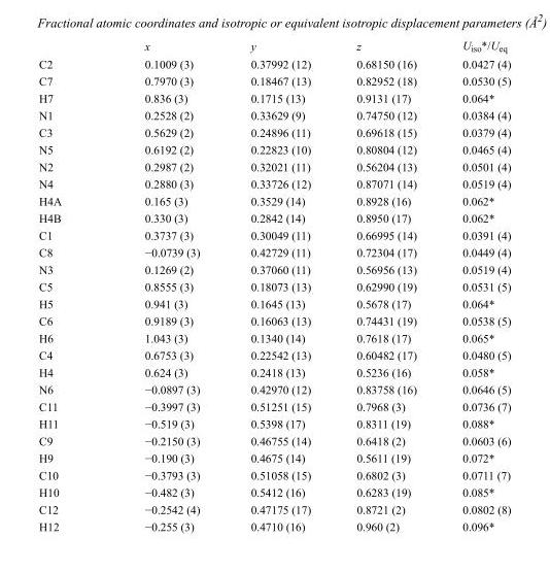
<table><thead><tr><td></td><td>x</td><td>y</td><td>z</td><td>U<sub>iso</sub>*/U<sub>eq</sub></td></tr></thead><tbody><tr><td>C2</td><td>0.1009 (3)</td><td>0.37992 (12)</td><td>0.68150 (16)</td><td>0.0427 (4)</td></tr><tr><td>C7</td><td>0.7970 (3)</td><td>0.18467 (13)</td><td>0.82952 (18)</td><td>0.0530 (5)</td></tr><tr><td>H7</td><td>0.836 (3)</td><td>0.1715 (13)</td><td>0.9131 (17)</td><td>0.064*</td></tr><tr><td>N1</td><td>0.2528 (2)</td><td>0.33629 (9)</td><td>0.74750 (12)</td><td>0.0384 (4)</td></tr><tr><td>C3</td><td>0.5629 (2)</td><td>0.24896 (11)</td><td>0.69618 (15)</td><td>0.0379 (4)</td></tr><tr><td>N5</td><td>0.6192 (2)</td><td>0.22823 (10)</td><td>0.80804 (12)</td><td>0.0465 (4)</td></tr><tr><td>N2</td><td>0.2987 (2)</td><td>0.32021 (11)</td><td>0.56204 (13)</td><td>0.0501 (4)</td></tr><tr><td>N4</td><td>0.2880 (3)</td><td>0.33726 (12)</td><td>0.87071 (14)</td><td>0.0519 (4)</td></tr><tr><td>H4A</td><td>0.165 (3)</td><td>0.3529 (14)</td><td>0.8928 (16)</td><td>0.062*</td></tr><tr><td>H4B</td><td>0.330 (3)</td><td>0.2842 (14)</td><td>0.8950 (17)</td><td>0.062*</td></tr><tr><td>C1</td><td>0.3737 (3)</td><td>0.30049 (11)</td><td>0.66995 (14)</td><td>0.0391 (4)</td></tr><tr><td>C8</td><td>−0.0739 (3)</td><td>0.42729 (11)</td><td>0.72304 (17)</td><td>0.0449 (4)</td></tr><tr><td>N3</td><td>0.1269 (2)</td><td>0.37060 (11)</td><td>0.56956 (13)</td><td>0.0519 (4)</td></tr><tr><td>C5</td><td>0.8555 (3)</td><td>0.18073 (13)</td><td>0.62990 (19)</td><td>0.0531 (5)</td></tr><tr><td>H5</td><td>0.941 (3)</td><td>0.1645 (13)</td><td>0.5678 (17)</td><td>0.064*</td></tr><tr><td>C6</td><td>0.9189 (3)</td><td>0.16063 (13)</td><td>0.74431 (19)</td><td>0.0538 (5)</td></tr><tr><td>H6</td><td>1.043 (3)</td><td>0.1340 (14)</td><td>0.7618 (17)</td><td>0.065*</td></tr><tr><td>C4</td><td>0.6753 (3)</td><td>0.22542 (13)</td><td>0.60482 (17)</td><td>0.0480 (5)</td></tr><tr><td>H4</td><td>0.624 (3)</td><td>0.2418 (13)</td><td>0.5236 (16)</td><td>0.058*</td></tr><tr><td>N6</td><td>−0.0897 (3)</td><td>0.42970 (12)</td><td>0.83758 (16)</td><td>0.0646 (5)</td></tr><tr><td>C11</td><td>−0.3997 (3)</td><td>0.51251 (15)</td><td>0.7968 (3)</td><td>0.0736 (7)</td></tr><tr><td>H11</td><td>−0.519 (3)</td><td>0.5398 (17)</td><td>0.8311 (19)</td><td>0.088*</td></tr><tr><td>C9</td><td>−0.2150 (3)</td><td>0.46755 (14)</td><td>0.6418 (2)</td><td>0.0603 (6)</td></tr><tr><td>H9</td><td>−0.190 (3)</td><td>0.4675 (14)</td><td>0.5611 (19)</td><td>0.072*</td></tr><tr><td>C10</td><td>−0.3793 (3)</td><td>0.51058 (15)</td><td>0.6802 (3)</td><td>0.0711 (7)</td></tr><tr><td>H10</td><td>−0.482 (3)</td><td>0.5412 (16)</td><td>0.6283 (19)</td><td>0.085*</td></tr><tr><td>C12</td><td>−0.2542 (4)</td><td>0.47175 (17)</td><td>0.8721 (2)</td><td>0.0802 (8)</td></tr><tr><td>H12</td><td>−0.255 (3)</td><td>0.4710 (16)</td><td>0.960 (2)</td><td>0.096*</td></tr></tbody></table>